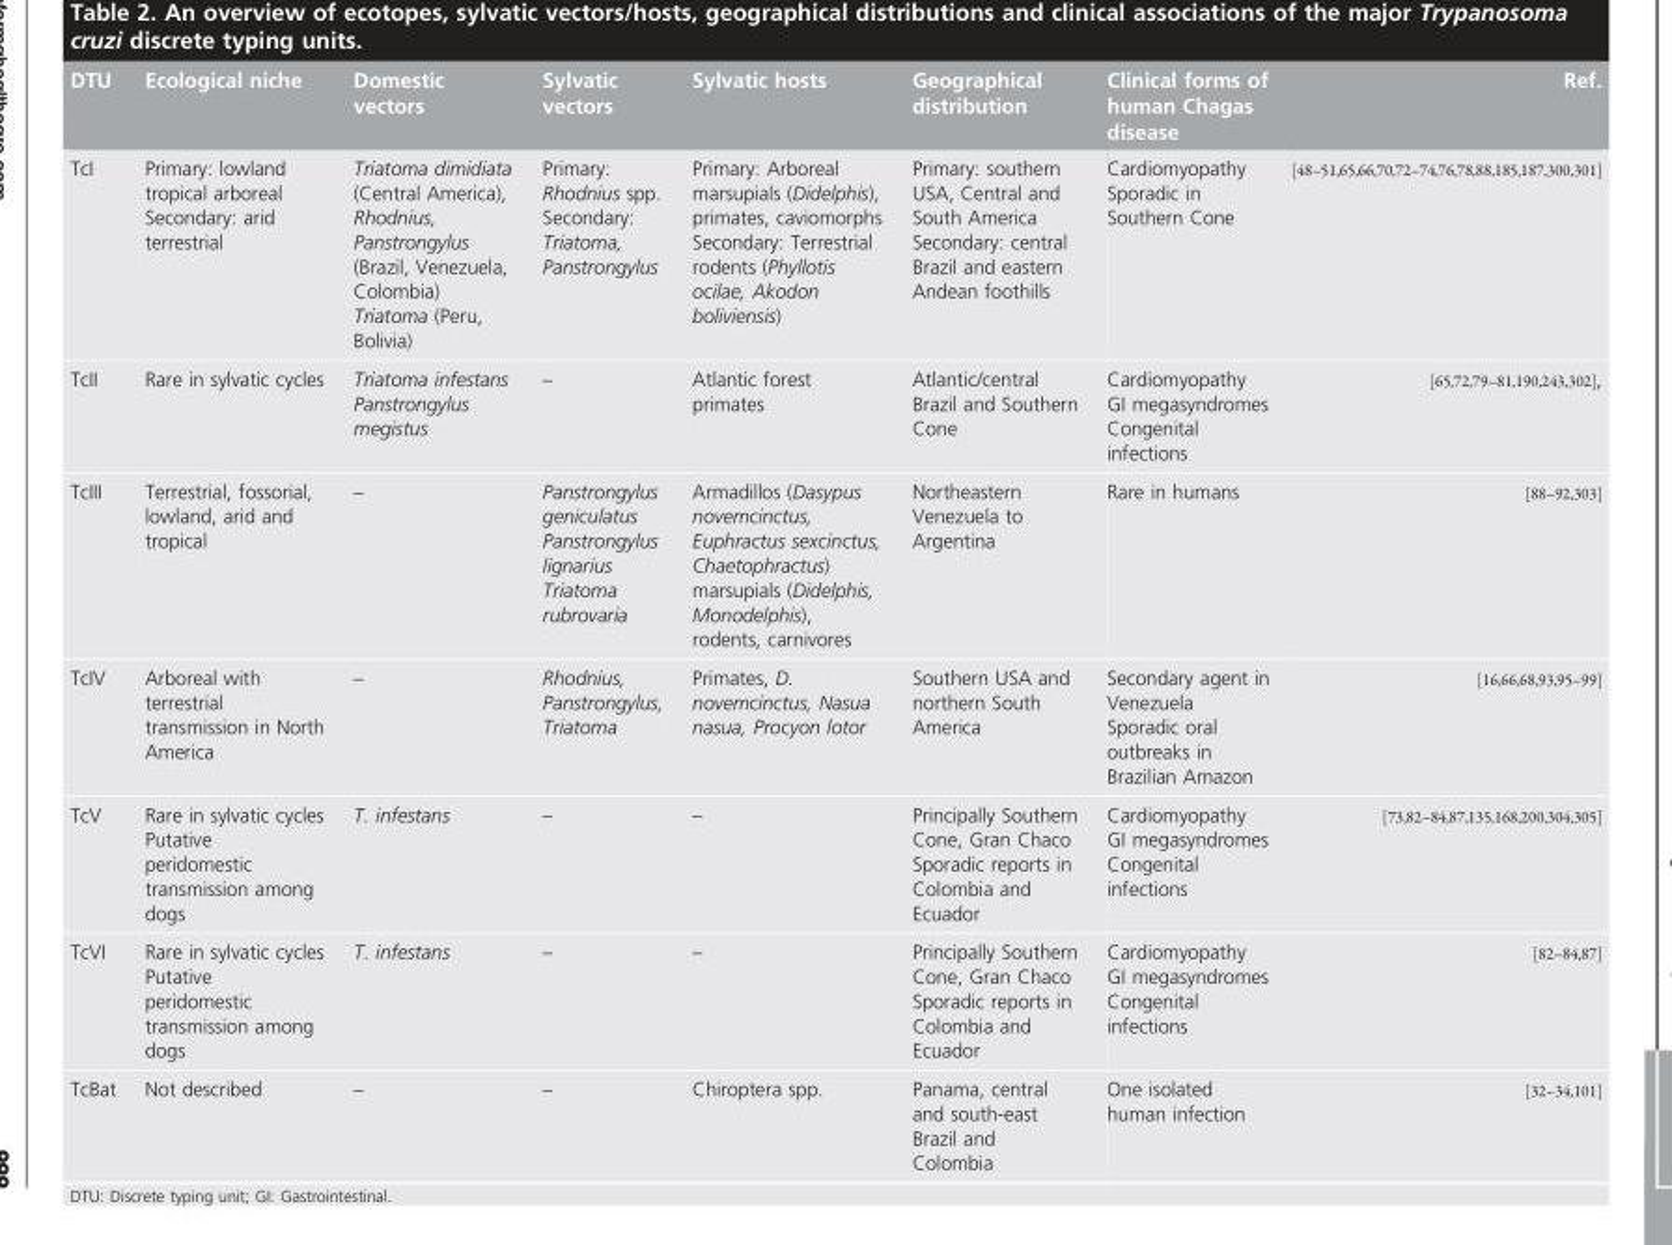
<table><thead><tr><td>DTU</td><td>Ecological niche</td><td>Domestic vectors</td><td>Sylvatic vectors</td><td>Sylvatic hosts</td><td>Geographical distribution</td><td>Clinical forms of human Chagas disease</td><td>Ref.</td></tr></thead><tbody><tr><td>TcI</td><td>Primary: lowland tropical arboreal Secondary: arid terrestrial</td><td>Triatoma dimidiata (Central America), Rhodnius, Panstrongylus (Brazil, Venezuela, Colombia) Triatoma (Peru, Bolivia)</td><td>Primary: Rhodnius spp. Secondary: Triatoma, Panstrongylus</td><td>Primary: Arboreal marsupials (Didelphis), primates, caviomorphs Secondary: Terrestrial rodents (Phyllotis ocilae, Akodon boliviensis)</td><td>Primary: southern USA, Central and South America Secondary: central Brazil and eastern Andean foothills</td><td>Cardiomyopathy Sporadic in Southern Cone</td><td>[48–51,65,66,70,72–74,76,78,88,185,187,300,301]</td></tr><tr><td>TcII</td><td>Rare in sylvatic cycles</td><td>Triatoma infestans Panstrongylus megistus</td><td>–</td><td>Atlantic forest primates</td><td>Atlantic/central Brazil and Southern Cone</td><td>Cardiomyopathy GI megasyndromes Congenital infections</td><td>[65,72,79–81,190,243,302],</td></tr><tr><td>TcIII</td><td>Terrestrial, fossorial, lowland, arid and tropical</td><td>–</td><td>Panstrongylus geniculatus Panstrongylus lignarius Triatoma rubrovaria</td><td>Armadillos (Dasypus novemcinctus, Euphractus sexcinctus, Chaetophractus) marsupials (Didelphis, Monodelphis), rodents, carnivores</td><td>Northeastern Venezuela to Argentina</td><td>Rare in humans</td><td>[88–92,303]</td></tr><tr><td>TcIV</td><td>Arboreal with terrestrial transmission in North America</td><td>–</td><td>Rhodnius, Panstrongylus, Triatoma</td><td>Primates, D. novemcinctus, Nasua nasua, Procyon lotor</td><td>Southern USA and northern South America</td><td>Secondary agent in Venezuela Sporadic oral outbreaks in Brazilian Amazon</td><td>[16,66,68,93,95–99]</td></tr><tr><td>TcV</td><td>Rare in sylvatic cycles Putative peridomestic transmission among dogs</td><td>T. infestans</td><td>–</td><td>–</td><td>Principally Southern Cone, Gran Chaco Sporadic reports in Colombia and Ecuador</td><td>Cardiomyopathy GI megasyndromes Congenital infections</td><td>[73,82–84,87,135,168,200,304,305]</td></tr><tr><td>TcVI</td><td>Rare in sylvatic cycles Putative peridomestic transmission among dogs</td><td>T. infestans</td><td>–</td><td>–</td><td>Principally Southern Cone, Gran Chaco Sporadic reports in Colombia and Ecuador</td><td>Cardiomyopathy GI megasyndromes Congenital infections</td><td>[82–84,87]</td></tr><tr><td>TcBat</td><td>Not described</td><td>–</td><td>–</td><td>Chiroptera spp.</td><td>Panama, central and south-east Brazil and Colombia</td><td>One isolated human infection</td><td>[32–34,101]</td></tr></tbody></table>